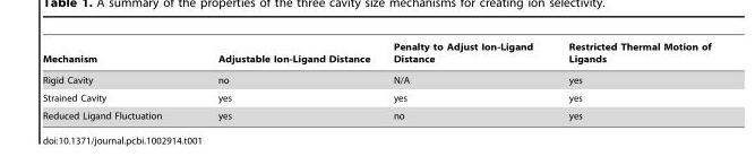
<table><thead><tr><td>Mechanism</td><td>Adjustable Ion-Ligand Distance</td><td>Penalty to Adjust Ion-Ligand Distance</td><td>Restricted Thermal Motion of Ligands</td></tr></thead><tbody><tr><td>Rigid Cavity</td><td>no</td><td>N/A</td><td>yes</td></tr><tr><td>Strained Cavity</td><td>yes</td><td>yes</td><td>yes</td></tr><tr><td>Reduced Ligand Fluctuation</td><td>yes</td><td>no</td><td>yes</td></tr></tbody></table>